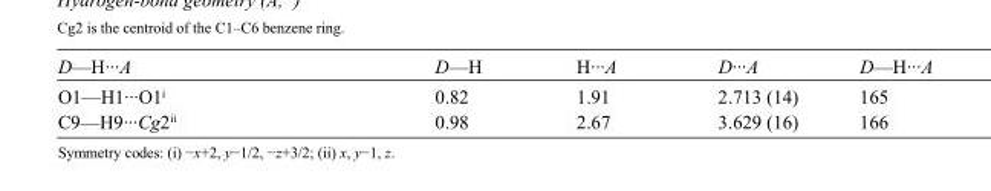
<table><tbody><tr><td>D—H···A</td><td>D—H</td><td>H···A</td><td>D···A</td><td>D—H···A</td></tr><tr><td>O1—H1···O1<sup>i</sup></td><td>0.82</td><td>1.91</td><td>2.713 (14)</td><td>165</td></tr><tr><td>C9—H9···Cg2<sup>ii</sup></td><td>0.98</td><td>2.67</td><td>3.629 (16)</td><td>166</td></tr></tbody></table>